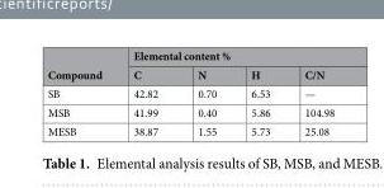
<table><thead><tr><td rowspan="2">Compound</td><td colspan="4">Elemental content %</td></tr><tr><td>C</td><td>N</td><td>H</td><td>C/N</td></tr></thead><tbody><tr><td>SB</td><td>42.82</td><td>0.70</td><td>6.53</td><td>—</td></tr><tr><td>MSB</td><td>41.99</td><td>0.40</td><td>5.86</td><td>104.98</td></tr><tr><td>MESB</td><td>38.87</td><td>1.55</td><td>5.73</td><td>25.08</td></tr></tbody></table>